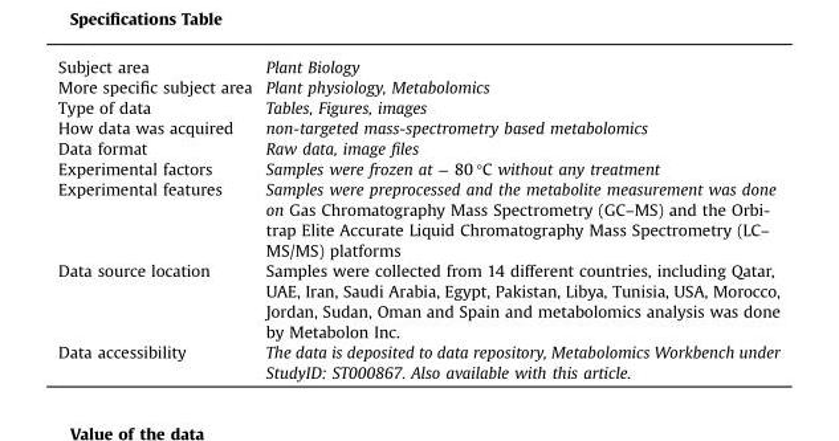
<table><tbody><tr><td>Subject area</td><td>Plant Biology</td></tr><tr><td>More specific subject area</td><td>Plant physiology, Metabolomics</td></tr><tr><td>Type of data</td><td>Tables, Figures, images</td></tr><tr><td>How data was acquired</td><td>non-targeted mass-spectrometry based metabolomics</td></tr><tr><td>Data format</td><td>Raw data, image files</td></tr><tr><td>Experimental factors</td><td>Samples were frozen at − 80 °C without any treatment</td></tr><tr><td>Experimental features</td><td>Samples were preprocessed and the metabolite measurement was done on Gas Chromatography Mass Spectrometry (GC–MS) and the Orbi- trap Elite Accurate Liquid Chromatography Mass Spectrometry (LC– MS/MS) platforms</td></tr><tr><td>Data source location</td><td>Samples were collected from 14 different countries, including Qatar, UAE, Iran, Saudi Arabia, Egypt, Pakistan, Libya, Tunisia, USA, Morocco, Jordan, Sudan, Oman and Spain and metabolomics analysis was done by Metabolon Inc.</td></tr><tr><td>Data accessibility</td><td>The data is deposited to data repository, Metabolomics Workbench under StudyID: ST000867. Also available with this article.</td></tr></tbody></table>